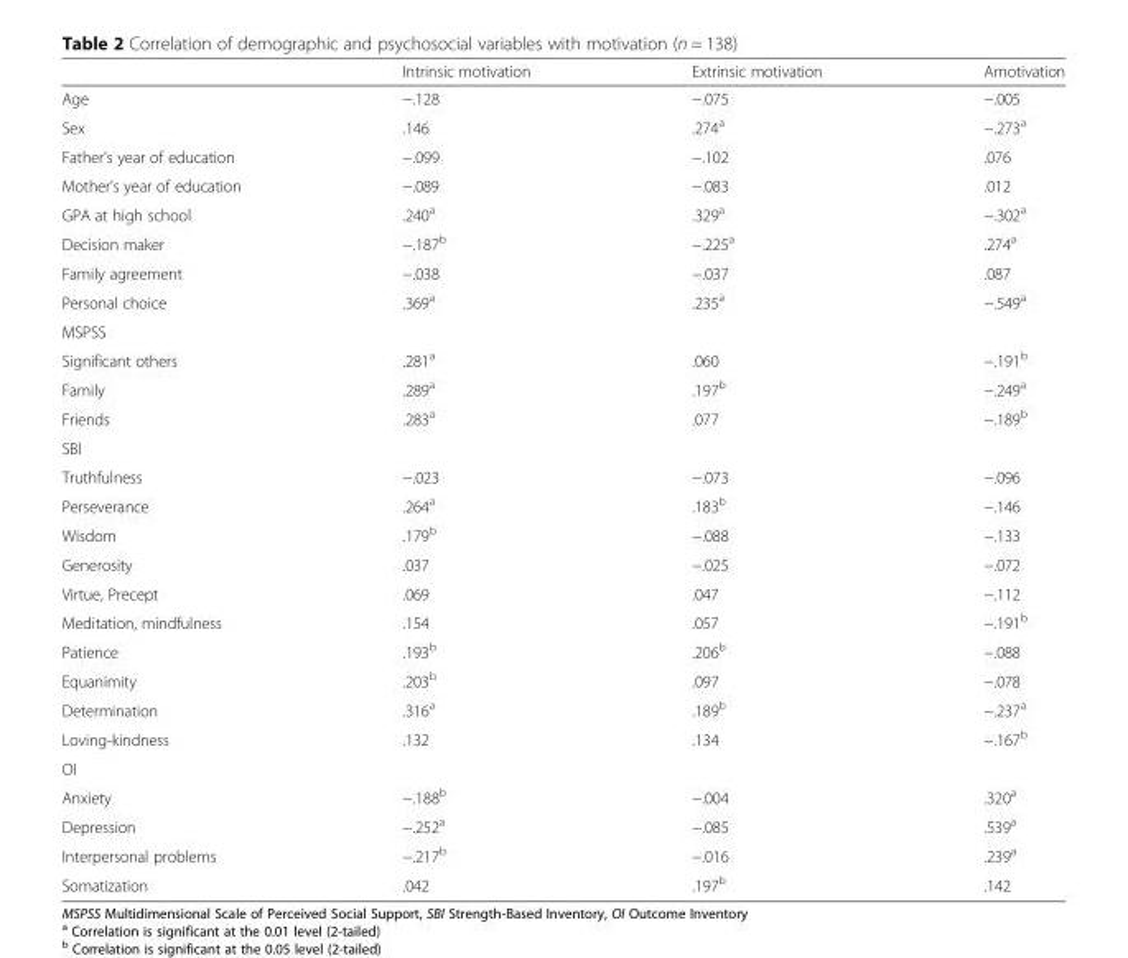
<table><thead><tr><td></td><td>Intrinsic motivation</td><td>Extrinsic motivation</td><td>Amotivation</td></tr></thead><tbody><tr><td>Age</td><td>−.128</td><td>−.075</td><td>−.005</td></tr><tr><td>Sex</td><td>.146</td><td>.274<sup>a</sup></td><td>−.273<sup>a</sup></td></tr><tr><td>Father’s year of education</td><td>−.099</td><td>−.102</td><td>.076</td></tr><tr><td>Mother’s year of education</td><td>−.089</td><td>−.083</td><td>.012</td></tr><tr><td>GPA at high school</td><td>.240<sup>a</sup></td><td>.329<sup>a</sup></td><td>−.302<sup>a</sup></td></tr><tr><td>Decision maker</td><td>−.187<sup>b</sup></td><td>−.225<sup>a</sup></td><td>.274<sup>a</sup></td></tr><tr><td>Family agreement</td><td>−.038</td><td>−.037</td><td>.087</td></tr><tr><td>Personal choice</td><td>.369<sup>a</sup></td><td>.235<sup>a</sup></td><td>−.549<sup>a</sup></td></tr><tr><td colspan="4">MSPSS</td></tr><tr><td>Significant others</td><td>.281<sup>a</sup></td><td>.060</td><td>−.191<sup>b</sup></td></tr><tr><td>Family</td><td>.289<sup>a</sup></td><td>.197<sup>b</sup></td><td>−.249<sup>a</sup></td></tr><tr><td>Friends</td><td>.283<sup>a</sup></td><td>.077</td><td>−.189<sup>b</sup></td></tr><tr><td colspan="4">SBI</td></tr><tr><td>Truthfulness</td><td>−.023</td><td>−.073</td><td>−.096</td></tr><tr><td>Perseverance</td><td>.264<sup>a</sup></td><td>.183<sup>b</sup></td><td>−.146</td></tr><tr><td>Wisdom</td><td>.179<sup>b</sup></td><td>−.088</td><td>−.133</td></tr><tr><td>Generosity</td><td>.037</td><td>−.025</td><td>−.072</td></tr><tr><td>Virtue, Precept</td><td>.069</td><td>.047</td><td>−.112</td></tr><tr><td>Meditation, mindfulness</td><td>.154</td><td>.057</td><td>−.191<sup>b</sup></td></tr><tr><td>Patience</td><td>.193<sup>b</sup></td><td>.206<sup>b</sup></td><td>−.088</td></tr><tr><td>Equanimity</td><td>.203<sup>b</sup></td><td>.097</td><td>−.078</td></tr><tr><td>Determination</td><td>.316<sup>a</sup></td><td>.189<sup>b</sup></td><td>−.237<sup>a</sup></td></tr><tr><td>Loving-kindness</td><td>.132</td><td>.134</td><td>−.167<sup>b</sup></td></tr><tr><td colspan="4">OI</td></tr><tr><td>Anxiety</td><td>−.188<sup>b</sup></td><td>−.004</td><td>.320<sup>a</sup></td></tr><tr><td>Depression</td><td>−.252<sup>a</sup></td><td>−.085</td><td>.539<sup>a</sup></td></tr><tr><td>Interpersonal problems</td><td>−.217<sup>b</sup></td><td>−.016</td><td>.239<sup>a</sup></td></tr><tr><td>Somatization</td><td>.042</td><td>.197<sup>b</sup></td><td>.142</td></tr></tbody></table>